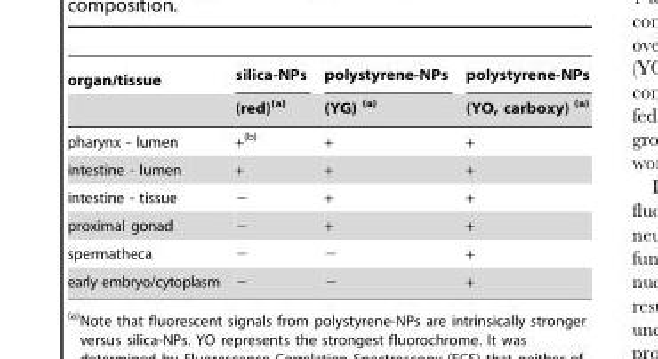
<table><thead><tr><td rowspan="2">organ/tissue</td><td rowspan="2">silica-NPs (red)(a)</td><td rowspan="2">polystyrene-NPs (YG) (a)</td><td rowspan="2">polystyrene-NPs (YO, carboxy) (a)</td></tr><tr></tr></thead><tbody><tr><td>pharynx - lumen</td><td>+(b)</td><td>+</td><td>+</td></tr><tr><td>intestine - lumen</td><td>+</td><td>+</td><td>+</td></tr><tr><td>intestine - tissue</td><td>−</td><td>+</td><td>+</td></tr><tr><td>proximal gonad</td><td>−</td><td>+</td><td>+</td></tr><tr><td>spermatheca</td><td>−</td><td>−</td><td>+</td></tr><tr><td>early embryo/cytoplasm</td><td>−</td><td>−</td><td>+</td></tr></tbody></table>